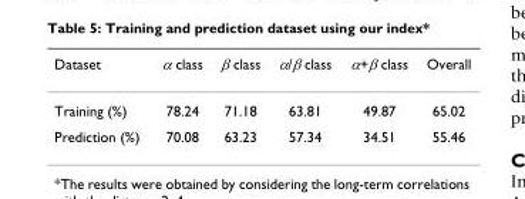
<table><thead><tr><td>Dataset</td><td>α class</td><td>β class</td><td>α/β class</td><td>α+β class</td><td>Overall</td></tr></thead><tbody><tr><td>Training (%)</td><td>78.24</td><td>71.18</td><td>63.81</td><td>49.87</td><td>65.02</td></tr><tr><td>Prediction (%)</td><td>70.08</td><td>63.23</td><td>57.34</td><td>34.51</td><td>55.46</td></tr></tbody></table>